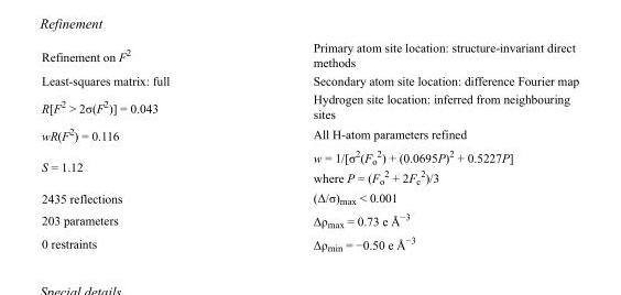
<table><tbody><tr><td>Refinement on F<sup>2</sup></td><td>Primary atom site location: structure-invariant direct methods</td></tr><tr><td>Least-squares matrix: full</td><td>Secondary atom site location: difference Fourier map</td></tr><tr><td>R[F<sup>2</sup> &gt; 2σ(F<sup>2</sup>)] = 0.043</td><td>Hydrogen site location: inferred from neighbouring sites</td></tr><tr><td>wR(F<sup>2</sup>) = 0.116</td><td>All H-atom parameters refined</td></tr><tr><td>S = 1.12</td><td>w = 1/[σ<sup>2</sup>(F<sub>o</sub> <sup>2</sup>) + (0.0695P)<sup>2</sup> + 0.5227P] where P = (F<sub>o</sub> <sup>2</sup> + 2F<sub>c</sub> <sup>2</sup>)/3</td></tr><tr><td>2435 reflections</td><td>(Δ/σ)<sub>max</sub> &lt; 0.001</td></tr><tr><td>203 parameters</td><td>Δρ<sub>max</sub> = 0.73 e Å<sup>−3</sup></td></tr><tr><td>0 restraints</td><td>Δρ<sub>min</sub> = −0.50 e Å<sup>−3</sup></td></tr></tbody></table>